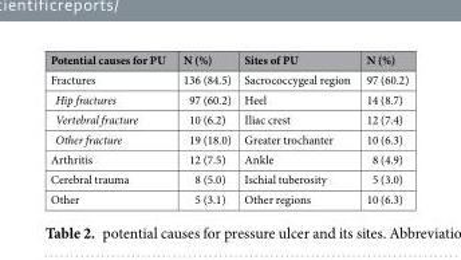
<table><thead><tr><td>Potential causes for PU</td><td>N (%)</td><td>Sites of PU</td><td>N (%)</td></tr></thead><tbody><tr><td>Fractures</td><td>136 (84.5)</td><td>Sacrococcygeal region</td><td>97 (60.2)</td></tr><tr><td>Hip fractures</td><td>97 (60.2)</td><td>Heel</td><td>14 (8.7)</td></tr><tr><td>Vertebral fracture</td><td>10 (6.2)</td><td>Iliac crest</td><td>12 (7.4)</td></tr><tr><td>Other fracture</td><td>19 (18.0)</td><td>Greater trochanter</td><td>10 (6.3)</td></tr><tr><td>Arthritis</td><td>12 (7.5)</td><td>Ankle</td><td>8 (4.9)</td></tr><tr><td>Cerebral trauma</td><td>8 (5.0)</td><td>Ischial tuberosity</td><td>5 (3.0)</td></tr><tr><td>Other</td><td>5 (3.1)</td><td>Other regions</td><td>10 (6.3)</td></tr></tbody></table>